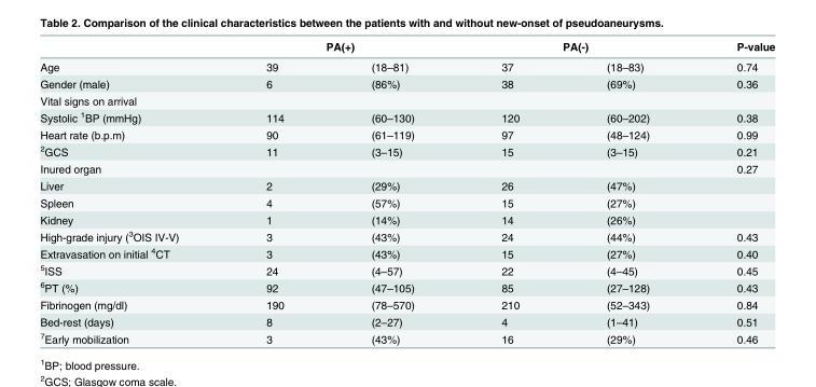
<table><thead><tr><td rowspan="2">Age</td><td colspan="2">PA(+)</td><td colspan="2">PA(-)</td><td rowspan="2">P-value 0.74</td></tr><tr><td>39</td><td>(18–81)</td><td>37</td><td>(18–83)</td></tr></thead><tbody><tr><td>Gender (male)</td><td>6</td><td>(86%)</td><td>38</td><td>(69%)</td><td>0.36</td></tr><tr><td colspan="6">Vital signs on arrival</td></tr><tr><td>Systolic <sup>1</sup>BP (mmHg)</td><td>114</td><td>(60–130)</td><td>120</td><td>(60–202)</td><td>0.38</td></tr><tr><td>Heart rate (b.p.m)</td><td>90</td><td>(61–119)</td><td>97</td><td>(48–124)</td><td>0.99</td></tr><tr><td><sup>2</sup>GCS</td><td>11</td><td>(3–15)</td><td>15</td><td>(3–15)</td><td>0.21</td></tr><tr><td>Inured organ</td><td></td><td></td><td></td><td></td><td>0.27</td></tr><tr><td>Liver</td><td>2</td><td>(29%)</td><td>26</td><td>(47%)</td><td></td></tr><tr><td>Spleen</td><td>4</td><td>(57%)</td><td>15</td><td>(27%)</td><td></td></tr><tr><td>Kidney</td><td>1</td><td>(14%)</td><td>14</td><td>(26%)</td><td></td></tr><tr><td>High-grade injury (<sup>3</sup>OIS IV-V)</td><td>3</td><td>(43%)</td><td>24</td><td>(44%)</td><td>0.43</td></tr><tr><td>Extravasation on initial <sup>4</sup>CT</td><td>3</td><td>(43%)</td><td>15</td><td>(27%)</td><td>0.40</td></tr><tr><td><sup>5</sup>ISS</td><td>24</td><td>(4–57)</td><td>22</td><td>(4–45)</td><td>0.45</td></tr><tr><td><sup>6</sup>PT (%)</td><td>92</td><td>(47–105)</td><td>85</td><td>(27–128)</td><td>0.43</td></tr><tr><td>Fibrinogen (mg/dl)</td><td>190</td><td>(78–570)</td><td>210</td><td>(52–343)</td><td>0.84</td></tr><tr><td>Bed-rest (days)</td><td>8</td><td>(2–27)</td><td>4</td><td>(1–41)</td><td>0.51</td></tr><tr><td><sup>7</sup>Early mobilization</td><td>3</td><td>(43%)</td><td>16</td><td>(29%)</td><td>0.46</td></tr></tbody></table>